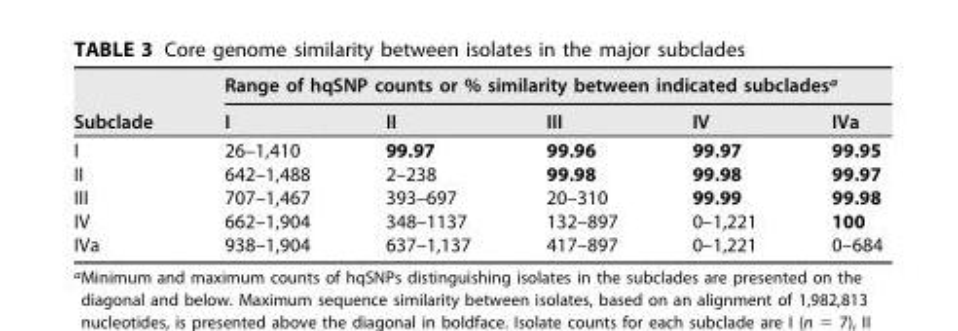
<table><thead><tr><td rowspan="2">Subclade</td><td colspan="5">Range of hqSNP counts or % similarity between indicated subclades<sup>a</sup></td></tr><tr><td>I</td><td>II</td><td>III</td><td>IV</td><td>IVa</td></tr></thead><tbody><tr><td>I</td><td>26–1,410</td><td>99.97</td><td>99.96</td><td>99.97</td><td>99.95</td></tr><tr><td>II</td><td>642–1,488</td><td>2–238</td><td>99.98</td><td>99.98</td><td>99.97</td></tr><tr><td>III</td><td>707–1,467</td><td>393–697</td><td>20–310</td><td>99.99</td><td>99.98</td></tr><tr><td>IV</td><td>662–1,904</td><td>348–1137</td><td>132–897</td><td>0–1,221</td><td>100</td></tr><tr><td>IVa</td><td>938–1,904</td><td>637–1,137</td><td>417–897</td><td>0–1,221</td><td>0–684</td></tr></tbody></table>